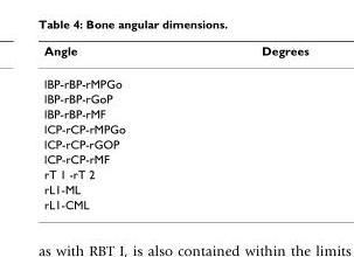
<table><thead><tr><td>Angle</td><td>Degrees</td></tr></thead><tbody><tr><td colspan="2">lBP-rBP-rMPGo</td></tr><tr><td colspan="2">lBP-rBP-rGoP</td></tr><tr><td colspan="2">lBP-rBP-rMF</td></tr><tr><td colspan="2">lCP-rCP-rMPGo</td></tr><tr><td colspan="2">lCP-rCP-rGOP</td></tr><tr><td colspan="2">lCP-rCP-rMF</td></tr><tr><td colspan="2">rT 1 -rT 2</td></tr><tr><td colspan="2">rL1-ML</td></tr><tr><td>rL1-CML</td><td></td></tr></tbody></table>